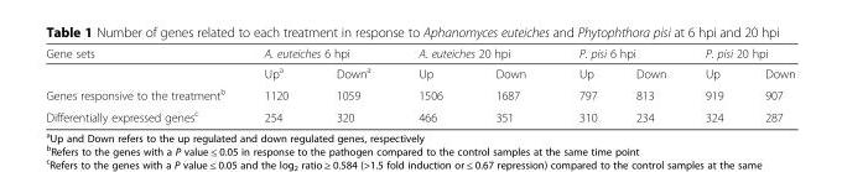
<table><thead><tr><td rowspan="2">Gene sets</td><td colspan="2">A. euteiches 6 hpi</td><td colspan="2">A. euteiches 20 hpi</td><td colspan="2">P. pisi 6 hpi</td><td colspan="2">P. pisi 20 hpi</td></tr><tr><td>Up<sup>a</sup></td><td>Down<sup>a</sup></td><td>Up</td><td>Down</td><td>Up</td><td>Down</td><td>Up</td><td>Down</td></tr></thead><tbody><tr><td>Genes responsive to the treatment<sup>b</sup></td><td>1120</td><td>1059</td><td>1506</td><td>1687</td><td>797</td><td>813</td><td>919</td><td>907</td></tr><tr><td>Differentially expressed genes<sup>c</sup></td><td>254</td><td>320</td><td>466</td><td>351</td><td>310</td><td>234</td><td>324</td><td>287</td></tr></tbody></table>